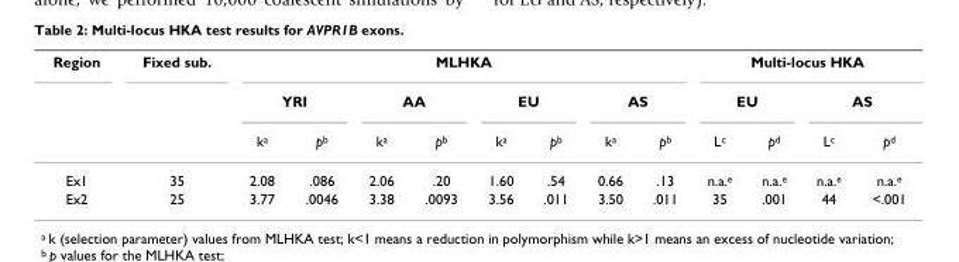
<table><thead><tr><td rowspan="3">Region</td><td rowspan="3">Fixed sub.</td><td colspan="8">MLHKA</td><td colspan="4">Multi-locus HKA</td></tr><tr><td colspan="2">YRI</td><td colspan="2">AA</td><td colspan="2">EU</td><td colspan="2">AS</td><td colspan="2">EU</td><td colspan="2">AS</td></tr><tr><td>k<sup>a</sup></td><td>p<sup>b</sup></td><td>k<sup>a</sup></td><td>p<sup>b</sup></td><td>k<sup>a</sup></td><td>p<sup>b</sup></td><td>k<sup>a</sup></td><td>p<sup>b</sup></td><td>L<sup>c</sup></td><td>p<sup>d</sup></td><td>L<sup>c</sup></td><td>p<sup>d</sup></td></tr></thead><tbody><tr><td>Ex1</td><td>35</td><td>2.08</td><td>.086</td><td>2.06</td><td>.20</td><td>1.60</td><td>.54</td><td>0.66</td><td>.13</td><td>n.a.<sup>e</sup></td><td>n.a.<sup>e</sup></td><td>n.a.<sup>e</sup></td><td>n.a.<sup>e</sup></td></tr><tr><td>Ex2</td><td>25</td><td>3.77</td><td>.0046</td><td>3.38</td><td>.0093</td><td>3.56</td><td>.011</td><td>3.50</td><td>.011</td><td>35</td><td>.001</td><td>44</td><td>&lt;.001</td></tr></tbody></table>